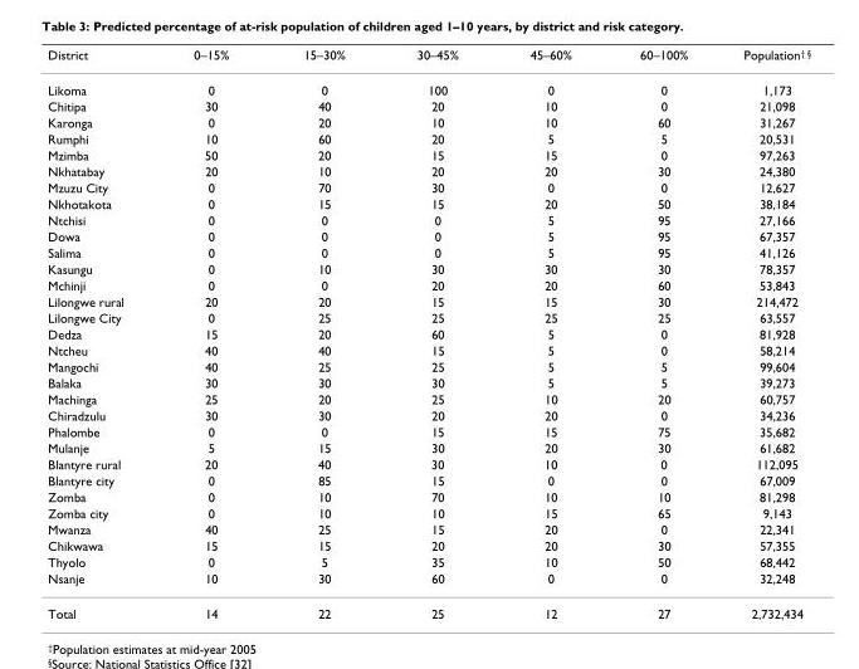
<table><thead><tr><td>District</td><td>0–15%</td><td>15–30%</td><td>30–45%</td><td>45–60%</td><td>60–100%</td><td>Population<sup>† §</sup></td></tr></thead><tbody><tr><td>Likoma</td><td>0</td><td>0</td><td>100</td><td>0</td><td>0</td><td>1,173</td></tr><tr><td>Chitipa</td><td>30</td><td>40</td><td>20</td><td>10</td><td>0</td><td>21,098</td></tr><tr><td>Karonga</td><td>0</td><td>20</td><td>10</td><td>10</td><td>60</td><td>31,267</td></tr><tr><td>Rumphi</td><td>10</td><td>60</td><td>20</td><td>5</td><td>5</td><td>20,531</td></tr><tr><td>Mzimba</td><td>50</td><td>20</td><td>15</td><td>15</td><td>0</td><td>97,263</td></tr><tr><td>Nkhatabay</td><td>20</td><td>10</td><td>20</td><td>20</td><td>30</td><td>24,380</td></tr><tr><td>Mzuzu City</td><td>0</td><td>70</td><td>30</td><td>0</td><td>0</td><td>12,627</td></tr><tr><td>Nkhotakota</td><td>0</td><td>15</td><td>15</td><td>20</td><td>50</td><td>38,184</td></tr><tr><td>Ntchisi</td><td>0</td><td>0</td><td>0</td><td>5</td><td>95</td><td>27,166</td></tr><tr><td>Dowa</td><td>0</td><td>0</td><td>0</td><td>5</td><td>95</td><td>67,357</td></tr><tr><td>Salima</td><td>0</td><td>0</td><td>0</td><td>5</td><td>95</td><td>41,126</td></tr><tr><td>Kasungu</td><td>0</td><td>10</td><td>30</td><td>30</td><td>30</td><td>78,357</td></tr><tr><td>Mchinji</td><td>0</td><td>0</td><td>20</td><td>20</td><td>60</td><td>53,843</td></tr><tr><td>Lilongwe rural</td><td>20</td><td>20</td><td>15</td><td>15</td><td>30</td><td>214,472</td></tr><tr><td>Lilongwe City</td><td>0</td><td>25</td><td>25</td><td>25</td><td>25</td><td>63,557</td></tr><tr><td>Dedza</td><td>15</td><td>20</td><td>60</td><td>5</td><td>0</td><td>81,928</td></tr><tr><td>Ntcheu</td><td>40</td><td>40</td><td>15</td><td>5</td><td>0</td><td>58,214</td></tr><tr><td>Mangochi</td><td>40</td><td>25</td><td>25</td><td>5</td><td>5</td><td>99,604</td></tr><tr><td>Balaka</td><td>30</td><td>30</td><td>30</td><td>5</td><td>5</td><td>39,273</td></tr><tr><td>Machinga</td><td>25</td><td>20</td><td>25</td><td>10</td><td>20</td><td>60,757</td></tr><tr><td>Chiradzulu</td><td>30</td><td>30</td><td>20</td><td>20</td><td>0</td><td>34,236</td></tr><tr><td>Phalombe</td><td>0</td><td>0</td><td>15</td><td>15</td><td>75</td><td>35,682</td></tr><tr><td>Mulanje</td><td>5</td><td>15</td><td>30</td><td>20</td><td>30</td><td>61,682</td></tr><tr><td>Blantyre rural</td><td>20</td><td>40</td><td>30</td><td>10</td><td>0</td><td>112,095</td></tr><tr><td>Blantyre city</td><td>0</td><td>85</td><td>15</td><td>0</td><td>0</td><td>67,009</td></tr><tr><td>Zomba</td><td>0</td><td>10</td><td>70</td><td>10</td><td>10</td><td>81,298</td></tr><tr><td>Zomba city</td><td>0</td><td>10</td><td>10</td><td>15</td><td>65</td><td>9,143</td></tr><tr><td>Mwanza</td><td>40</td><td>25</td><td>15</td><td>20</td><td>0</td><td>22,341</td></tr><tr><td>Chikwawa</td><td>15</td><td>15</td><td>20</td><td>20</td><td>30</td><td>57,355</td></tr><tr><td>Thyolo</td><td>0</td><td>5</td><td>35</td><td>10</td><td>50</td><td>68,442</td></tr><tr><td>Nsanje</td><td>10</td><td>30</td><td>60</td><td>0</td><td>0</td><td>32,248</td></tr><tr><td>Total</td><td>14</td><td>22</td><td>25</td><td>12</td><td>27</td><td>2,732,434</td></tr></tbody></table>